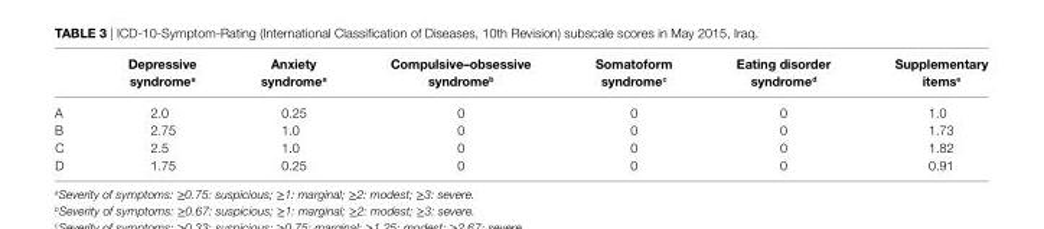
<table><thead><tr><td></td><td>Depressive syndrome<sup>a</sup></td><td>anxiety syndrome<sup>a</sup></td><td>Compulsive–obsessive syndrome<sup>b</sup></td><td>somatoform syndrome<sup>c</sup></td><td>eating disorder syndrome<sup>d</sup></td><td>supplementary items<sup>e</sup></td></tr></thead><tbody><tr><td>A</td><td>2.0</td><td>0.25</td><td>0</td><td>0</td><td>0</td><td>1.0</td></tr><tr><td>B</td><td>2.75</td><td>1.0</td><td>0</td><td>0</td><td>0</td><td>1.73</td></tr><tr><td>C</td><td>2.5</td><td>1.0</td><td>0</td><td>0</td><td>0</td><td>1.82</td></tr><tr><td>D</td><td>1.75</td><td>0.25</td><td>0</td><td>0</td><td>0</td><td>0.91</td></tr></tbody></table>